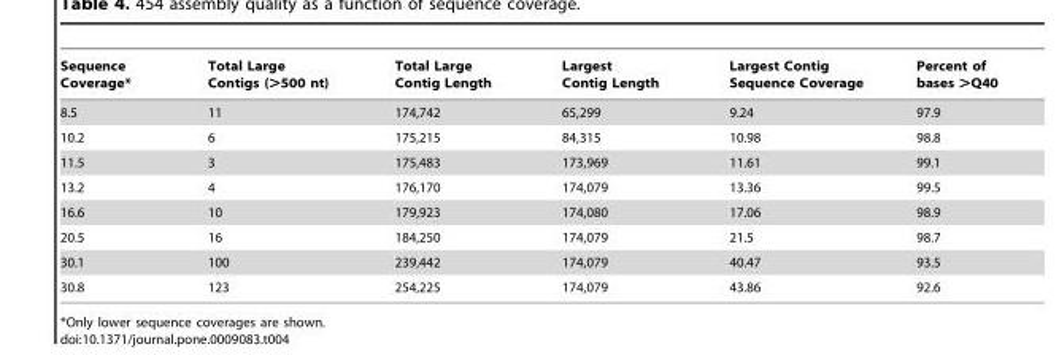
<table><thead><tr><td>Sequence Coverage*</td><td>Total Large Contigs (&gt;500 nt)</td><td>Total Large Contig Length</td><td>Largest Contig Length</td><td>Largest Contig Sequence Coverage</td><td>Percent of bases &gt;Q40</td></tr></thead><tbody><tr><td>8.5</td><td>11</td><td>174,742</td><td>65,299</td><td>9.24</td><td>97.9</td></tr><tr><td>10.2</td><td>6</td><td>175,215</td><td>84,315</td><td>10.98</td><td>98.8</td></tr><tr><td>11.5</td><td>3</td><td>175,483</td><td>173,969</td><td>11.61</td><td>99.1</td></tr><tr><td>13.2</td><td>4</td><td>176,170</td><td>174,079</td><td>13.36</td><td>99.5</td></tr><tr><td>16.6</td><td>10</td><td>179,923</td><td>174,080</td><td>17.06</td><td>98.9</td></tr><tr><td>20.5</td><td>16</td><td>184,250</td><td>174,079</td><td>21.5</td><td>98.7</td></tr><tr><td>30.1</td><td>100</td><td>239,442</td><td>174,079</td><td>40.47</td><td>93.5</td></tr><tr><td>30.8</td><td>123</td><td>254,225</td><td>174,079</td><td>43.86</td><td>92.6</td></tr></tbody></table>